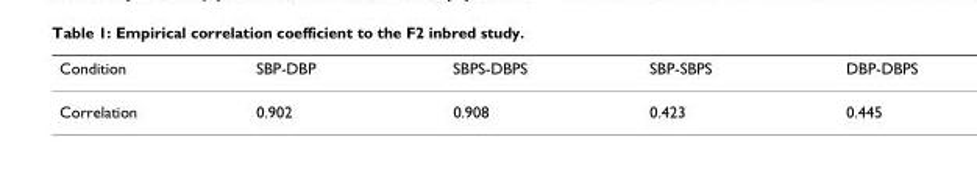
<table><thead><tr><td>Condition</td><td>SBP-DBP</td><td>SBPS-DBPS</td><td>SBP-SBPS</td><td>DBP-DBPS</td></tr></thead><tbody><tr><td>Correlation</td><td>0.902</td><td>0.908</td><td>0.423</td><td>0.445</td></tr></tbody></table>